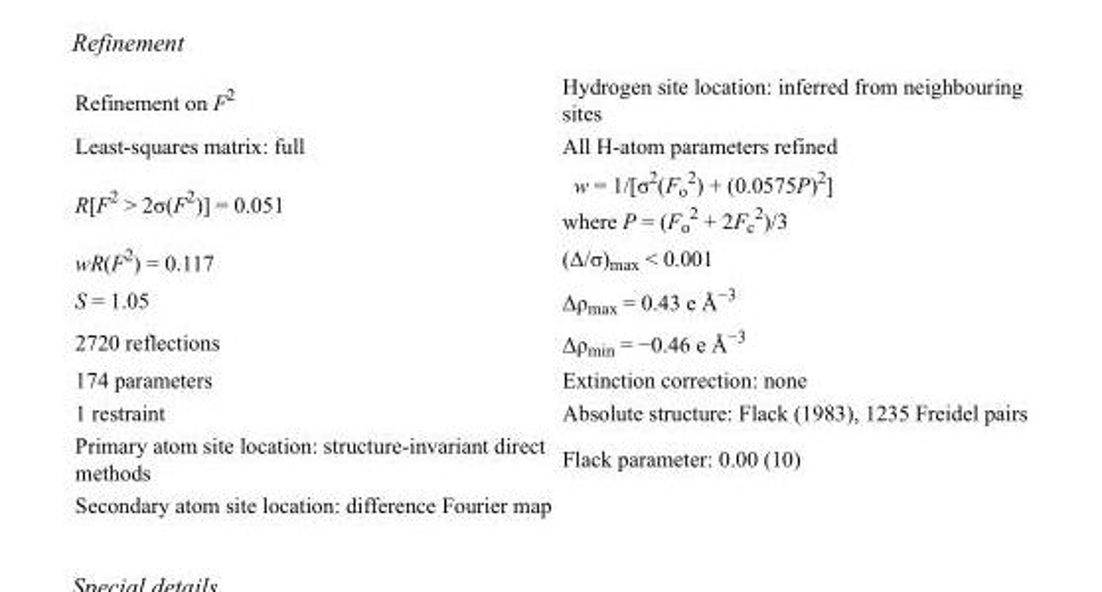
<table><tbody><tr><td>Refinement on F<sup>2</sup></td><td>Hydrogen site location: inferred from neighbouring sites</td></tr><tr><td>Least-squares matrix: full</td><td>All H-atom parameters refined</td></tr><tr><td>R[F<sup>2</sup> &gt; 2σ(F<sup>2</sup>)] = 0.051</td><td>w = 1/[σ<sup>2</sup>(F<sub>o</sub> <sup>2</sup>) + (0.0575P)<sup>2</sup>] where P = (F<sub>o</sub> <sup>2</sup> + 2F<sub>c</sub> <sup>2</sup>)/3</td></tr><tr><td>wR(F<sup>2</sup>) = 0.117</td><td>(Δ/σ)<sub>max</sub> &lt; 0.001</td></tr><tr><td>S = 1.05</td><td>Δρ<sub>max</sub> = 0.43 e Å<sup>−3</sup></td></tr><tr><td>2720 reflections</td><td>Δρ<sub>min</sub> = −0.46 e Å<sup>−3</sup></td></tr><tr><td>174 parameters</td><td>Extinction correction: none</td></tr><tr><td>1 restraint</td><td>Absolute structure: Flack (1983), 1235 Freidel pairs</td></tr><tr><td>Primary atom site location: structure-invariant direct methods</td><td>Flack parameter: 0.00 (10)</td></tr><tr><td>Secondary atom site location: difference Fourier map</td><td></td></tr></tbody></table>